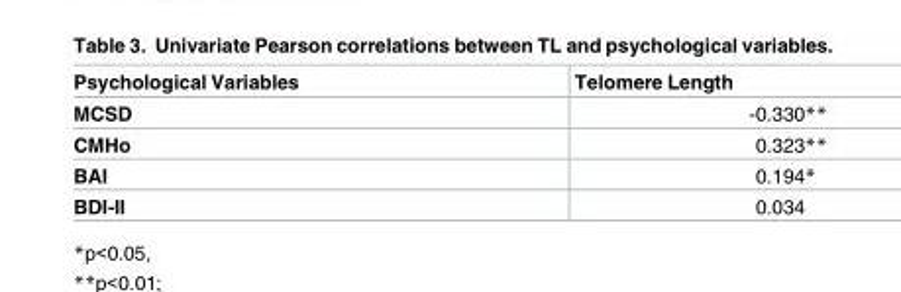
<table><thead><tr><td>Psychological Variables</td><td>Telomere Length</td></tr></thead><tbody><tr><td>MCSD</td><td>-0.330**</td></tr><tr><td>CMHo</td><td>0.323**</td></tr><tr><td>BAI</td><td>0.194*</td></tr><tr><td>BDI-II</td><td>0.034</td></tr></tbody></table>